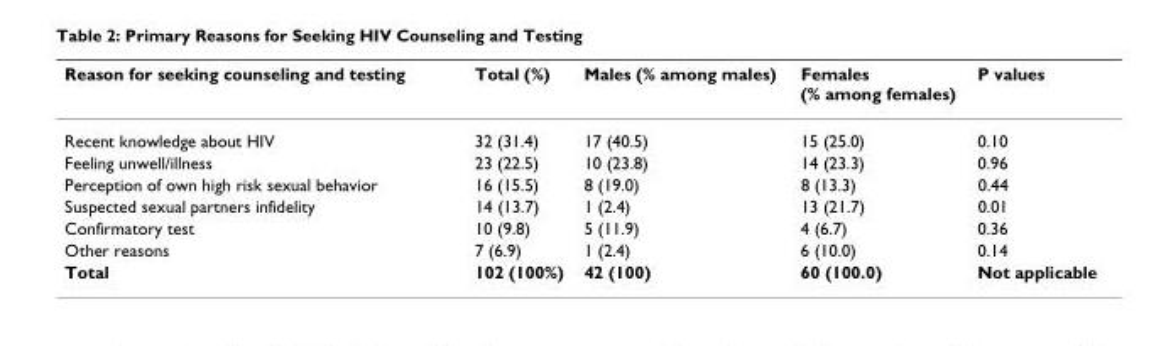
<table><thead><tr><td>Reason for seeking counseling and testing</td><td>Total (%)</td><td>Males (% among males)</td><td>Females (% among females)</td><td>P values</td></tr></thead><tbody><tr><td>Recent knowledge about HIV</td><td>32 (31.4)</td><td>17 (40.5)</td><td>15 (25.0)</td><td>0.10</td></tr><tr><td>Feeling unwell/illness</td><td>23 (22.5)</td><td>10 (23.8)</td><td>14 (23.3)</td><td>0.96</td></tr><tr><td>Perception of own high risk sexual behavior</td><td>16 (15.5)</td><td>8 (19.0)</td><td>8 (13.3)</td><td>0.44</td></tr><tr><td>Suspected sexual partners infidelity</td><td>14 (13.7)</td><td>1 (2.4)</td><td>13 (21.7)</td><td>0.01</td></tr><tr><td>Confirmatory test</td><td>10 (9.8)</td><td>5 (11.9)</td><td>4 (6.7)</td><td>0.36</td></tr><tr><td>Other reasons</td><td>7 (6.9)</td><td>1 (2.4)</td><td>6 (10.0)</td><td>0.14</td></tr><tr><td>Total</td><td>102 (100%)</td><td>42 (100)</td><td>60 (100.0)</td><td>Not applicable</td></tr></tbody></table>